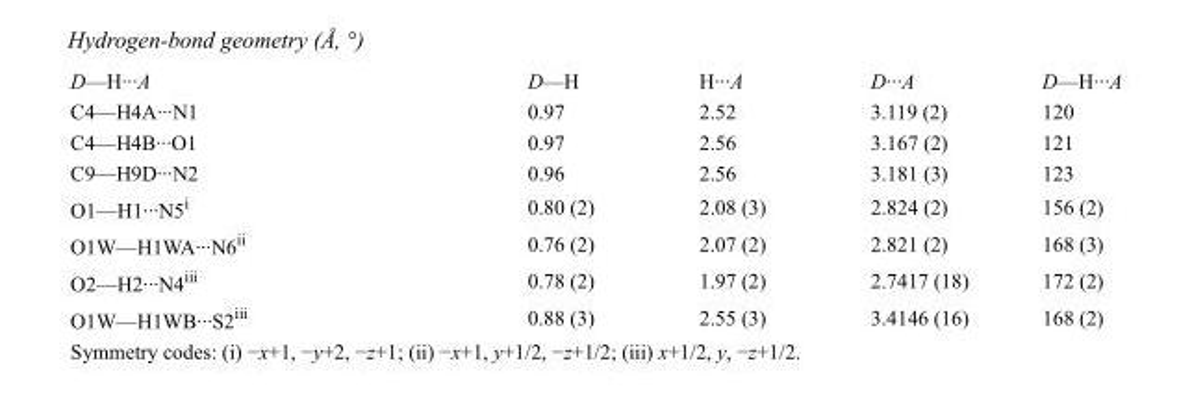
<table><tbody><tr><td>D—H···A</td><td>D—H</td><td>H···A</td><td>D···A</td><td>D—H···A</td></tr><tr><td>C4—H4A···N1</td><td>0.97</td><td>2.52</td><td>3.119 (2)</td><td>120</td></tr><tr><td>C4—H4B···O1</td><td>0.97</td><td>2.56</td><td>3.167 (2)</td><td>121</td></tr><tr><td>C9—H9D···N2</td><td>0.96</td><td>2.56</td><td>3.181 (3)</td><td>123</td></tr><tr><td>O1—H1···N5<sup>i</sup></td><td>0.80 (2)</td><td>2.08 (3)</td><td>2.824 (2)</td><td>156 (2)</td></tr><tr><td>O1W—H1WA···N6<sup>ii</sup></td><td>0.76 (2)</td><td>2.07 (2)</td><td>2.821 (2)</td><td>168 (3)</td></tr><tr><td>O2—H2···N4<sup>iii</sup></td><td>0.78 (2)</td><td>1.97 (2)</td><td>2.7417 (18)</td><td>172 (2)</td></tr><tr><td>O1W—H1WB···S2<sup>iii</sup></td><td>0.88 (3)</td><td>2.55 (3)</td><td>3.4146 (16)</td><td>168 (2)</td></tr></tbody></table>